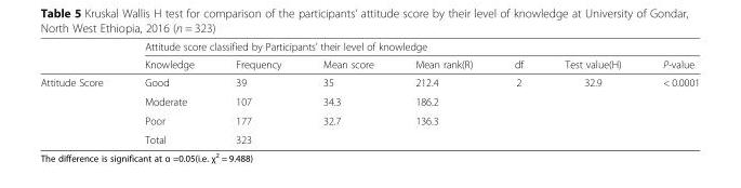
<table><thead><tr><td rowspan="2"></td><td colspan="7">Attitude score classified by Participants’ their level of knowledge</td></tr><tr><td>Knowledge</td><td>Frequency</td><td>Mean score</td><td>Mean rank(R)</td><td>df</td><td>Test value(H)</td><td>P-value</td></tr></thead><tbody><tr><td rowspan="4">Attitude Score</td><td>Good</td><td>39</td><td>35</td><td>212.4</td><td>2</td><td>32.9</td><td>&lt; 0.0001</td></tr><tr><td>Moderate</td><td>107</td><td>34.3</td><td>186.2</td><td></td><td></td><td></td></tr><tr><td>Poor</td><td>177</td><td>32.7</td><td>136.3</td><td></td><td></td><td></td></tr><tr><td>Total</td><td>323</td><td></td><td></td><td></td><td></td><td></td></tr></tbody></table>